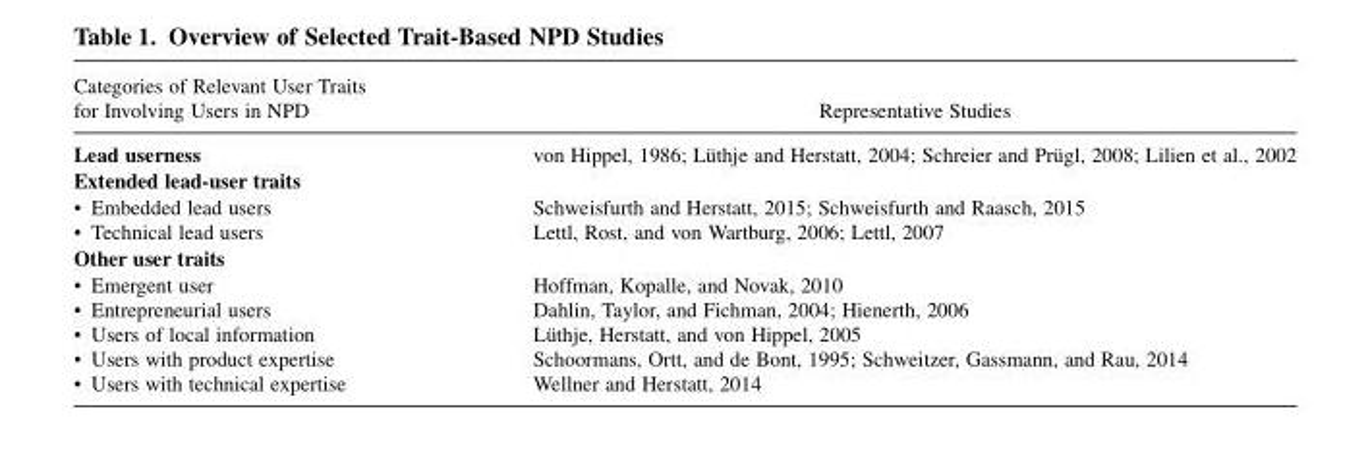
<table><thead><tr><td>Categories of Relevant User Traits for Involving Users in NPD</td><td>Representative Studies</td></tr></thead><tbody><tr><td>Lead userness</td><td>von Hippel, 1986; Lüthje and Herstatt, 2004; Schreier and Prügl, 2008; Lilien et al., 2002</td></tr><tr><td colspan="2">Extended lead-user traits</td></tr><tr><td>• Embedded lead users • Technical lead users</td><td>Schweisfurth and Herstatt, 2015; Schweisfurth and Raasch, 2015 Lettl, Rost, and von Wartburg, 2006; Lettl, 2007</td></tr><tr><td colspan="2">Other user traits</td></tr><tr><td>• Emergent user • Entrepreneurial users • Users of local information • Users with product expertise • Users with technical expertise</td><td>Hoffman, Kopalle, and Novak, 2010 Dahlin, Taylor, and Fichman, 2004; Hienerth, 2006 Lüthje, Herstatt, and von Hippel, 2005 Schoormans, Ortt, and de Bont, 1995; Schweitzer, Gassmann, and Rau, 2014 Wellner and Herstatt, 2014</td></tr></tbody></table>